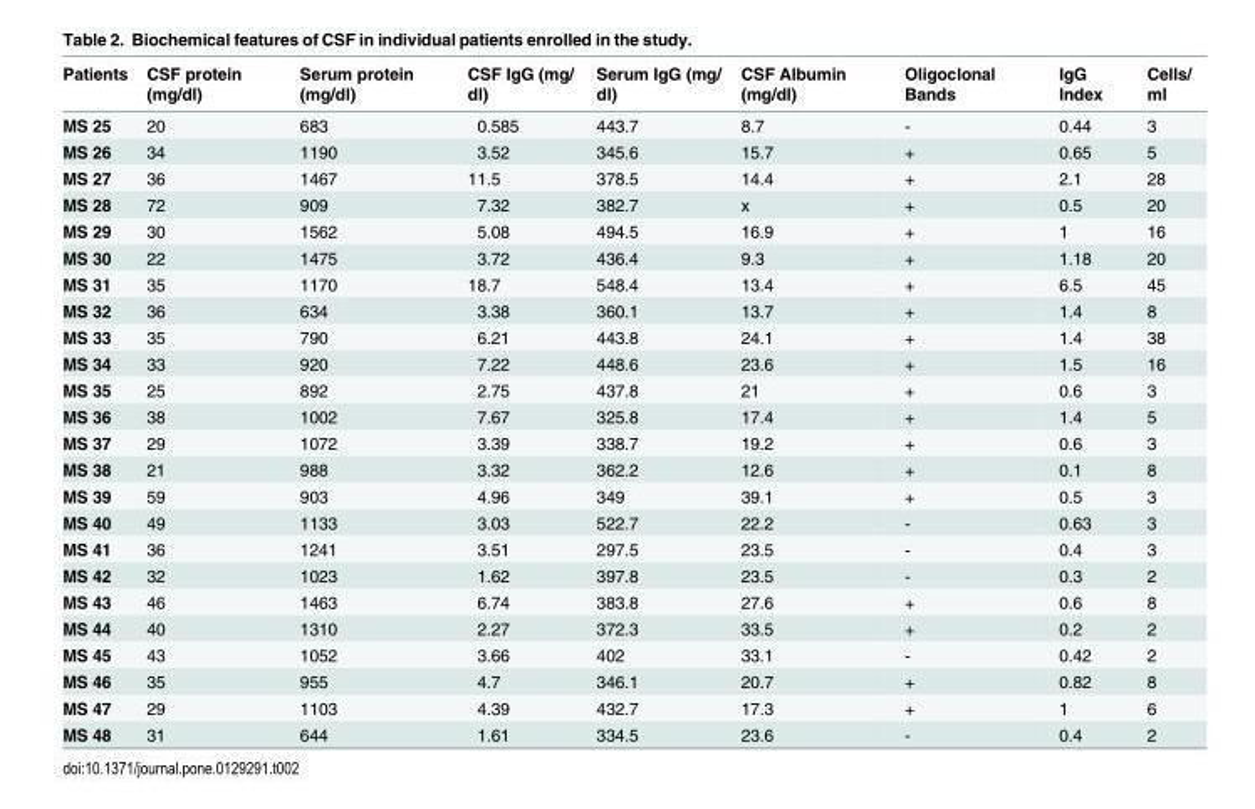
<table><thead><tr><td>Patients</td><td>CSF protein (mg/dl)</td><td>Serum protein (mg/dl)</td><td>CSF IgG (mg/ dl)</td><td>Serum IgG (mg/ dl)</td><td>CSF Albumin (mg/dl)</td><td>Oligoclonal Bands</td><td>IgG Index</td><td>Cells/ ml</td></tr></thead><tbody><tr><td>MS 25</td><td>20</td><td>683</td><td>0.585</td><td>443.7</td><td>8.7</td><td>-</td><td>0.44</td><td>3</td></tr><tr><td>MS 26</td><td>34</td><td>1190</td><td>3.52</td><td>345.6</td><td>15.7</td><td>+</td><td>0.65</td><td>5</td></tr><tr><td>MS 27</td><td>36</td><td>1467</td><td>11.5</td><td>378.5</td><td>14.4</td><td>+</td><td>2.1</td><td>28</td></tr><tr><td>MS 28</td><td>72</td><td>909</td><td>7.32</td><td>382.7</td><td>x</td><td>+</td><td>0.5</td><td>20</td></tr><tr><td>MS 29</td><td>30</td><td>1562</td><td>5.08</td><td>494.5</td><td>16.9</td><td>+</td><td>1</td><td>16</td></tr><tr><td>MS 30</td><td>22</td><td>1475</td><td>3.72</td><td>436.4</td><td>9.3</td><td>+</td><td>1.18</td><td>20</td></tr><tr><td>MS 31</td><td>35</td><td>1170</td><td>18.7</td><td>548.4</td><td>13.4</td><td>+</td><td>6.5</td><td>45</td></tr><tr><td>MS 32</td><td>36</td><td>634</td><td>3.38</td><td>360.1</td><td>13.7</td><td>+</td><td>1.4</td><td>8</td></tr><tr><td>MS 33</td><td>35</td><td>790</td><td>6.21</td><td>443.8</td><td>24.1</td><td>+</td><td>1.4</td><td>38</td></tr><tr><td>MS 34</td><td>33</td><td>920</td><td>7.22</td><td>448.6</td><td>23.6</td><td>+</td><td>1.5</td><td>16</td></tr><tr><td>MS 35</td><td>25</td><td>892</td><td>2.75</td><td>437.8</td><td>21</td><td>+</td><td>0.6</td><td>3</td></tr><tr><td>MS 36</td><td>38</td><td>1002</td><td>7.67</td><td>325.8</td><td>17.4</td><td>+</td><td>1.4</td><td>5</td></tr><tr><td>MS 37</td><td>29</td><td>1072</td><td>3.39</td><td>338.7</td><td>19.2</td><td>+</td><td>0.6</td><td>3</td></tr><tr><td>MS 38</td><td>21</td><td>988</td><td>3.32</td><td>362.2</td><td>12.6</td><td>+</td><td>0.1</td><td>8</td></tr><tr><td>MS 39</td><td>59</td><td>903</td><td>4.96</td><td>349</td><td>39.1</td><td>+</td><td>0.5</td><td>3</td></tr><tr><td>MS 40</td><td>49</td><td>1133</td><td>3.03</td><td>522.7</td><td>22.2</td><td>-</td><td>0.63</td><td>3</td></tr><tr><td>MS 41</td><td>36</td><td>1241</td><td>3.51</td><td>297.5</td><td>23.5</td><td>-</td><td>0.4</td><td>3</td></tr><tr><td>MS 42</td><td>32</td><td>1023</td><td>1.62</td><td>397.8</td><td>23.5</td><td>-</td><td>0.3</td><td>2</td></tr><tr><td>MS 43</td><td>46</td><td>1463</td><td>6.74</td><td>383.8</td><td>27.6</td><td>+</td><td>0.6</td><td>8</td></tr><tr><td>MS 44</td><td>40</td><td>1310</td><td>2.27</td><td>372.3</td><td>33.5</td><td>+</td><td>0.2</td><td>2</td></tr><tr><td>MS 45</td><td>43</td><td>1052</td><td>3.66</td><td>402</td><td>33.1</td><td>-</td><td>0.42</td><td>2</td></tr><tr><td>MS 46</td><td>35</td><td>955</td><td>4.7</td><td>346.1</td><td>20.7</td><td>+</td><td>0.82</td><td>8</td></tr><tr><td>MS 47</td><td>29</td><td>1103</td><td>4.39</td><td>432.7</td><td>17.3</td><td>+</td><td>1</td><td>6</td></tr><tr><td>MS 48</td><td>31</td><td>644</td><td>1.61</td><td>334.5</td><td>23.6</td><td>-</td><td>0.4</td><td>2</td></tr></tbody></table>